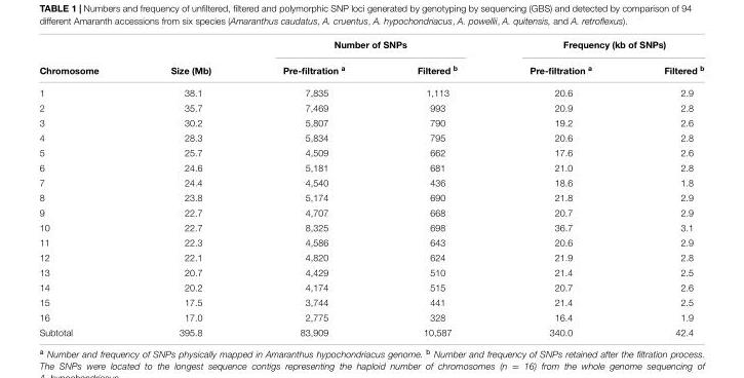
<table><thead><tr><td rowspan="2">Chromosome</td><td rowspan="2">Size (Mb)</td><td colspan="2">Number of SNPs</td><td colspan="2">Frequency (kb of SNPs)</td></tr><tr><td>Pre-filtration <sup>a</sup></td><td>Filtered <sup>b</sup></td><td>Pre-filtration <sup>a</sup></td><td>Filtered <sup>b</sup></td></tr></thead><tbody><tr><td>1</td><td>38.1</td><td>7,835</td><td>1,113</td><td>20.6</td><td>2.9</td></tr><tr><td>2</td><td>35.7</td><td>7,469</td><td>993</td><td>20.9</td><td>2.8</td></tr><tr><td>3</td><td>30.2</td><td>5,807</td><td>790</td><td>19.2</td><td>2.6</td></tr><tr><td>4</td><td>28.3</td><td>5,834</td><td>795</td><td>20.6</td><td>2.8</td></tr><tr><td>5</td><td>25.7</td><td>4,509</td><td>662</td><td>17.6</td><td>2.6</td></tr><tr><td>6</td><td>24.6</td><td>5,181</td><td>681</td><td>21.0</td><td>2.8</td></tr><tr><td>7</td><td>24.4</td><td>4,540</td><td>436</td><td>18.6</td><td>1.8</td></tr><tr><td>8</td><td>23.8</td><td>5,174</td><td>690</td><td>21.8</td><td>2.9</td></tr><tr><td>9</td><td>22.7</td><td>4,707</td><td>668</td><td>20.7</td><td>2.9</td></tr><tr><td>10</td><td>22.7</td><td>8,325</td><td>698</td><td>36.7</td><td>3.1</td></tr><tr><td>11</td><td>22.3</td><td>4,586</td><td>643</td><td>20.6</td><td>2.9</td></tr><tr><td>12</td><td>22.1</td><td>4,820</td><td>624</td><td>21.9</td><td>2.8</td></tr><tr><td>13</td><td>20.7</td><td>4,429</td><td>510</td><td>21.4</td><td>2.5</td></tr><tr><td>14</td><td>20.2</td><td>4,174</td><td>515</td><td>20.7</td><td>2.6</td></tr><tr><td>15</td><td>17.5</td><td>3,744</td><td>441</td><td>21.4</td><td>2.5</td></tr><tr><td>16</td><td>17.0</td><td>2,775</td><td>328</td><td>16.4</td><td>1.9</td></tr><tr><td>Subtotal</td><td>395.8</td><td>83,909</td><td>10,587</td><td>340.0</td><td>42.4</td></tr></tbody></table>